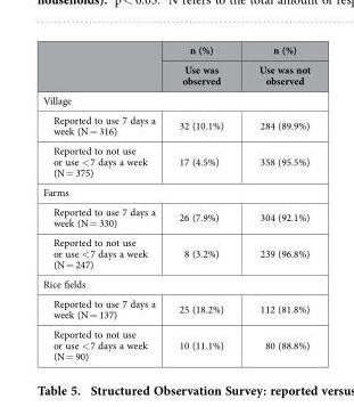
<table><thead><tr><td rowspan="2"></td><td rowspan="2">n (%) Use was observed</td><td rowspan="2">n (%) Use was not observed</td></tr><tr></tr></thead><tbody><tr><td colspan="3">Village</td></tr><tr><td>Reported to use 7 days a week (N = 316)</td><td>32 (10.1%)</td><td>284 (89.9%)</td></tr><tr><td>Reported to not use or use &lt; 7 days a week (N = 375)</td><td>17 (4.5%)</td><td>358 (95.5%)</td></tr><tr><td colspan="3">Farms</td></tr><tr><td>Reported to use 7 days a week (N = 330)</td><td>26 (7.9%)</td><td>304 (92.1%)</td></tr><tr><td>Reported to not use or use &lt; 7 days a week (N = 247)</td><td>8 (3.2%)</td><td>239 (96.8%)</td></tr><tr><td colspan="3">Rice fields</td></tr><tr><td>Reported to use 7 days a week (N = 137)</td><td>25 (18.2%)</td><td>112 (81.8%)</td></tr><tr><td>Reported to not use or use &lt; 7 days a week (N = 90)</td><td>10 (11.1%)</td><td>80 (88.8%)</td></tr></tbody></table>